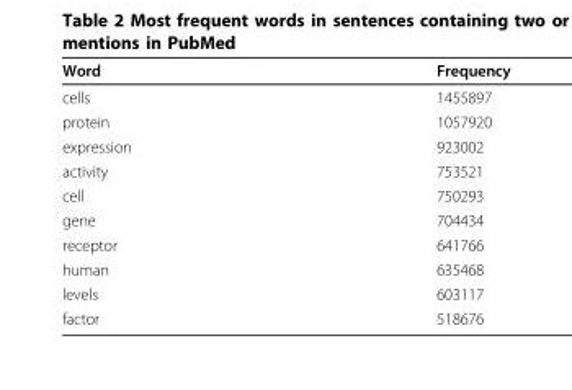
<table><thead><tr><td>Word</td><td>Frequency</td></tr></thead><tbody><tr><td>cells</td><td>1455897</td></tr><tr><td>protein</td><td>1057920</td></tr><tr><td>expression</td><td>923002</td></tr><tr><td>activity</td><td>753521</td></tr><tr><td>cell</td><td>750293</td></tr><tr><td>gene</td><td>704434</td></tr><tr><td>receptor</td><td>641766</td></tr><tr><td>human</td><td>635468</td></tr><tr><td>levels</td><td>603117</td></tr><tr><td>factor</td><td>518676</td></tr></tbody></table>